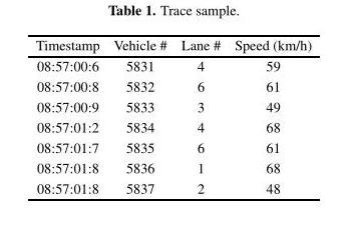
<table><thead><tr><td>Timestamp</td><td>Vehicle #</td><td>Lane #</td><td>Speed (km/h)</td></tr></thead><tbody><tr><td>08:57:00:6</td><td>5831</td><td>4</td><td>59</td></tr><tr><td>08:57:00:8</td><td>5832</td><td>6</td><td>61</td></tr><tr><td>08:57:00:9</td><td>5833</td><td>3</td><td>49</td></tr><tr><td>08:57:01:2</td><td>5834</td><td>4</td><td>68</td></tr><tr><td>08:57:01:7</td><td>5835</td><td>6</td><td>61</td></tr><tr><td>08:57:01:8</td><td>5836</td><td>1</td><td>68</td></tr><tr><td>08:57:01:8</td><td>5837</td><td>2</td><td>48</td></tr></tbody></table>